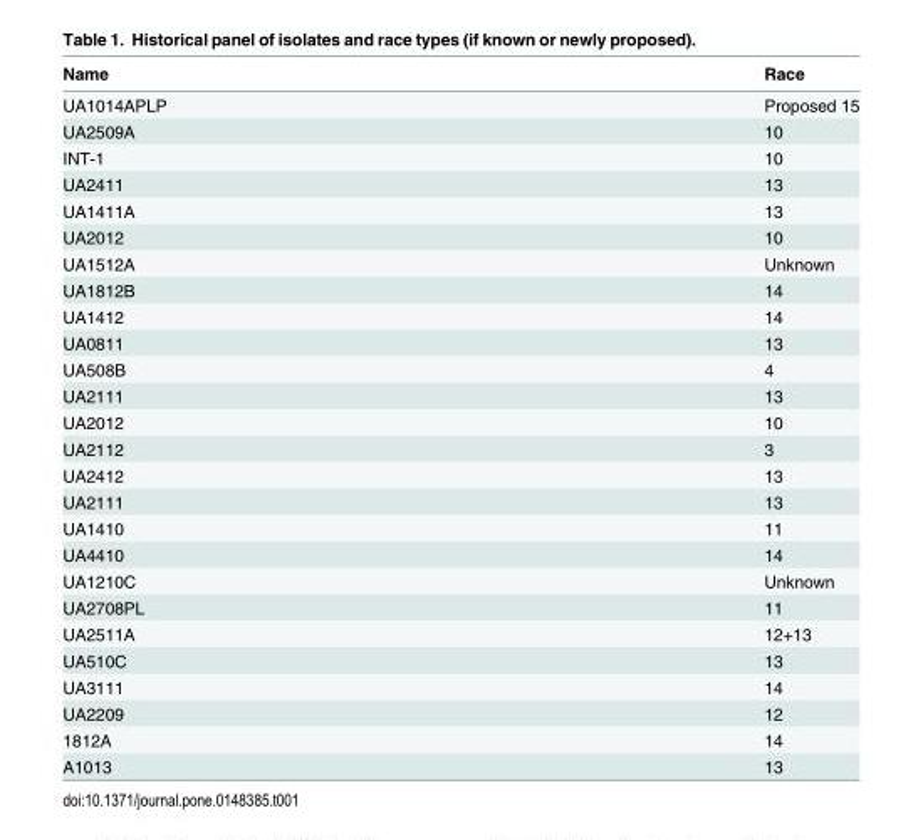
<table><thead><tr><td>Name</td><td>Race</td></tr></thead><tbody><tr><td>UA1014APLP</td><td>Proposed 15</td></tr><tr><td>UA2509A</td><td>10</td></tr><tr><td>INT-1</td><td>10</td></tr><tr><td>UA2411</td><td>13</td></tr><tr><td>UA1411A</td><td>13</td></tr><tr><td>UA2012</td><td>10</td></tr><tr><td>UA1512A</td><td>Unknown</td></tr><tr><td>UA1812B</td><td>14</td></tr><tr><td>UA1412</td><td>14</td></tr><tr><td>UA0811</td><td>13</td></tr><tr><td>UA508B</td><td>4</td></tr><tr><td>UA2111</td><td>13</td></tr><tr><td>UA2012</td><td>10</td></tr><tr><td>UA2112</td><td>3</td></tr><tr><td>UA2412</td><td>13</td></tr><tr><td>UA2111</td><td>13</td></tr><tr><td>UA1410</td><td>11</td></tr><tr><td>UA4410</td><td>14</td></tr><tr><td>UA1210C</td><td>Unknown</td></tr><tr><td>UA2708PL</td><td>11</td></tr><tr><td>UA2511A</td><td>12+13</td></tr><tr><td>UA510C</td><td>13</td></tr><tr><td>UA3111</td><td>14</td></tr><tr><td>UA2209</td><td>12</td></tr><tr><td>1812A</td><td>14</td></tr><tr><td>A1013</td><td>13</td></tr></tbody></table>